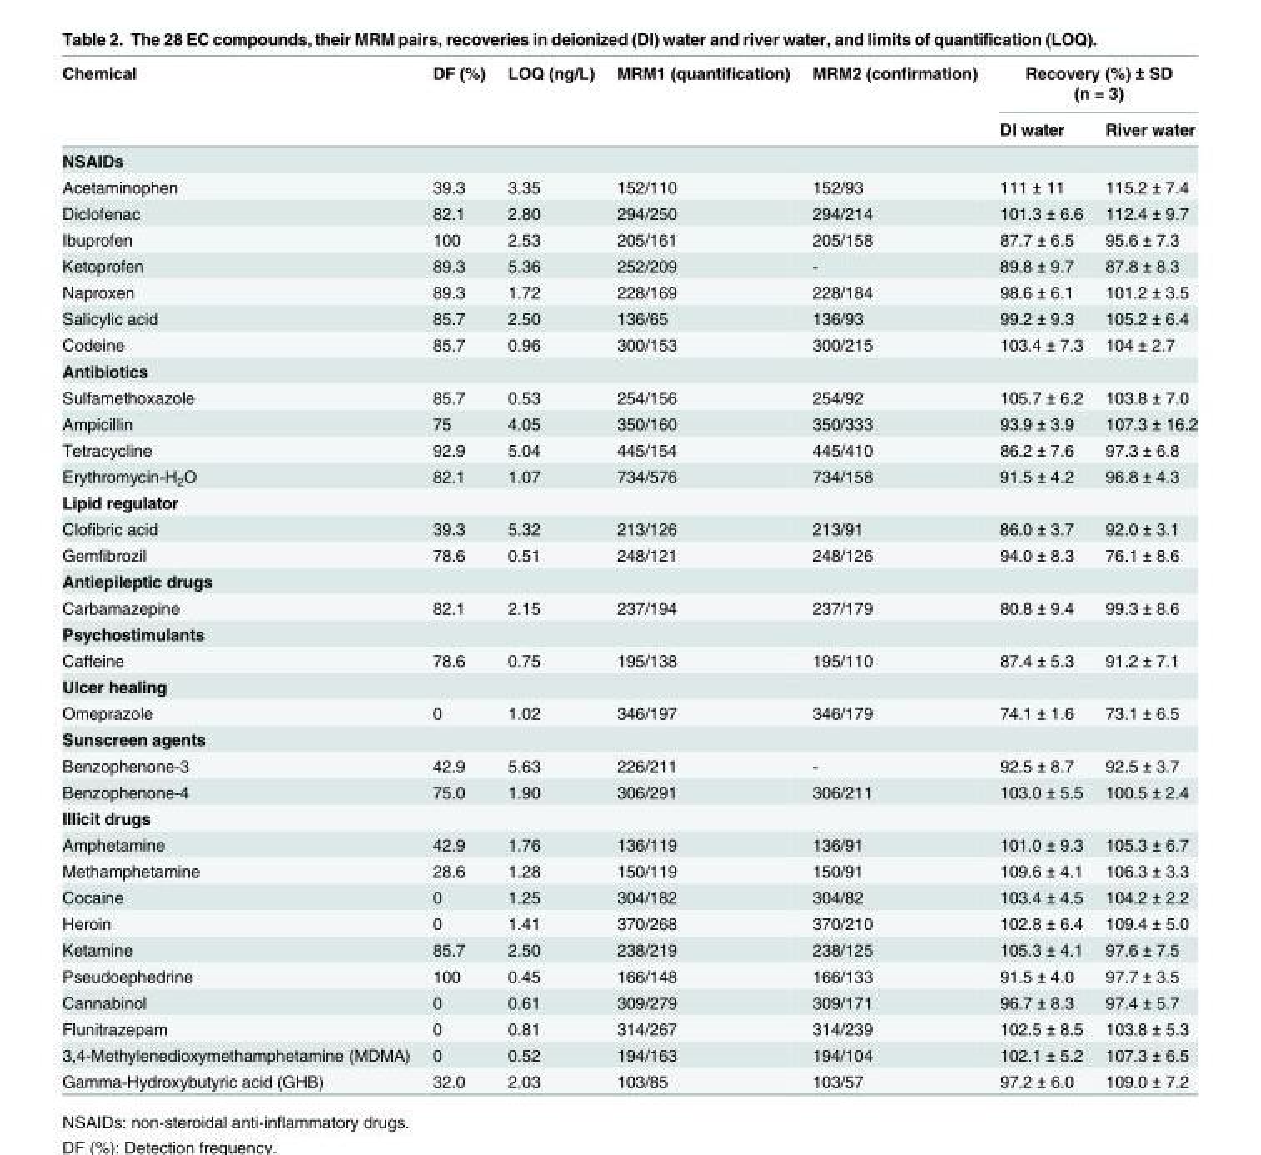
<table><thead><tr><td rowspan="2">Chemical</td><td rowspan="2">DF (%)</td><td rowspan="2">LOQ (ng/L)</td><td rowspan="2">MRM1 (quantification)</td><td rowspan="2">MRM2 (confirmation)</td><td colspan="2">Recovery (%) ± SD (n = 3)</td></tr><tr><td>DI water</td><td>River water</td></tr></thead><tbody><tr><td colspan="7">NSAIDs</td></tr><tr><td>Acetaminophen</td><td>39.3</td><td>3.35</td><td>152/110</td><td>152/93</td><td>111 ± 11</td><td>115.2 ± 7.4</td></tr><tr><td>Diclofenac</td><td>82.1</td><td>2.80</td><td>294/250</td><td>294/214</td><td>101.3 ± 6.6</td><td>112.4 ± 9.7</td></tr><tr><td>Ibuprofen</td><td>100</td><td>2.53</td><td>205/161</td><td>205/158</td><td>87.7 ± 6.5</td><td>95.6 ± 7.3</td></tr><tr><td>Ketoprofen</td><td>89.3</td><td>5.36</td><td>252/209</td><td>-</td><td>89.8 ± 9.7</td><td>87.8 ± 8.3</td></tr><tr><td>Naproxen</td><td>89.3</td><td>1.72</td><td>228/169</td><td>228/184</td><td>98.6 ± 6.1</td><td>101.2 ± 3.5</td></tr><tr><td>Salicylic acid</td><td>85.7</td><td>2.50</td><td>136/65</td><td>136/93</td><td>99.2 ± 9.3</td><td>105.2 ± 6.4</td></tr><tr><td>Codeine</td><td>85.7</td><td>0.96</td><td>300/153</td><td>300/215</td><td>103.4 ± 7.3</td><td>104 ± 2.7</td></tr><tr><td colspan="7">Antibiotics</td></tr><tr><td>Sulfamethoxazole</td><td>85.7</td><td>0.53</td><td>254/156</td><td>254/92</td><td>105.7 ± 6.2</td><td>103.8 ± 7.0</td></tr><tr><td>Ampicillin</td><td>75</td><td>4.05</td><td>350/160</td><td>350/333</td><td>93.9 ± 3.9</td><td>107.3 ± 16.2</td></tr><tr><td>Tetracycline</td><td>92.9</td><td>5.04</td><td>445/154</td><td>445/410</td><td>86.2 ± 7.6</td><td>97.3 ± 6.8</td></tr><tr><td>Erythromycin-H<sub>2</sub>O</td><td>82.1</td><td>1.07</td><td>734/576</td><td>734/158</td><td>91.5 ± 4.2</td><td>96.8 ± 4.3</td></tr><tr><td colspan="7">Lipid regulator</td></tr><tr><td>Clofibric acid</td><td>39.3</td><td>5.32</td><td>213/126</td><td>213/91</td><td>86.0 ± 3.7</td><td>92.0 ± 3.1</td></tr><tr><td>Gemfibrozil</td><td>78.6</td><td>0.51</td><td>248/121</td><td>248/126</td><td>94.0 ± 8.3</td><td>76.1 ± 8.6</td></tr><tr><td colspan="7">Antiepileptic drugs</td></tr><tr><td>Carbamazepine</td><td>82.1</td><td>2.15</td><td>237/194</td><td>237/179</td><td>80.8 ± 9.4</td><td>99.3 ± 8.6</td></tr><tr><td colspan="7">Psychostimulants</td></tr><tr><td>Caffeine</td><td>78.6</td><td>0.75</td><td>195/138</td><td>195/110</td><td>87.4 ± 5.3</td><td>91.2 ± 7.1</td></tr><tr><td colspan="7">Ulcer healing</td></tr><tr><td>Omeprazole</td><td>0</td><td>1.02</td><td>346/197</td><td>346/179</td><td>74.1 ± 1.6</td><td>73.1 ± 6.5</td></tr><tr><td colspan="7">Sunscreen agents</td></tr><tr><td>Benzophenone-3</td><td>42.9</td><td>5.63</td><td>226/211</td><td>-</td><td>92.5 ± 8.7</td><td>92.5 ± 3.7</td></tr><tr><td>Benzophenone-4</td><td>75.0</td><td>1.90</td><td>306/291</td><td>306/211</td><td>103.0 ± 5.5</td><td>100.5 ± 2.4</td></tr><tr><td colspan="7">Illicit drugs</td></tr><tr><td>Amphetamine</td><td>42.9</td><td>1.76</td><td>136/119</td><td>136/91</td><td>101.0 ± 9.3</td><td>105.3 ± 6.7</td></tr><tr><td>Methamphetamine</td><td>28.6</td><td>1.28</td><td>150/119</td><td>150/91</td><td>109.6 ± 4.1</td><td>106.3 ± 3.3</td></tr><tr><td>Cocaine</td><td>0</td><td>1.25</td><td>304/182</td><td>304/82</td><td>103.4 ± 4.5</td><td>104.2 ± 2.2</td></tr><tr><td>Heroin</td><td>0</td><td>1.41</td><td>370/268</td><td>370/210</td><td>102.8 ± 6.4</td><td>109.4 ± 5.0</td></tr><tr><td>Ketamine</td><td>85.7</td><td>2.50</td><td>238/219</td><td>238/125</td><td>105.3 ± 4.1</td><td>97.6 ± 7.5</td></tr><tr><td>Pseudoephedrine</td><td>100</td><td>0.45</td><td>166/148</td><td>166/133</td><td>91.5 ± 4.0</td><td>97.7 ± 3.5</td></tr><tr><td>Cannabinol</td><td>0</td><td>0.61</td><td>309/279</td><td>309/171</td><td>96.7 ± 8.3</td><td>97.4 ± 5.7</td></tr><tr><td>Flunitrazepam</td><td>0</td><td>0.81</td><td>314/267</td><td>314/239</td><td>102.5 ± 8.5</td><td>103.8 ± 5.3</td></tr><tr><td>3,4-Methylenedioxymethamphetamine (MDMA)</td><td>0</td><td>0.52</td><td>194/163</td><td>194/104</td><td>102.1 ± 5.2</td><td>107.3 ± 6.5</td></tr><tr><td>Gamma-Hydroxybutyric acid (GHB)</td><td>32.0</td><td>2.03</td><td>103/85</td><td>103/57</td><td>97.2 ± 6.0</td><td>109.0 ± 7.2</td></tr></tbody></table>